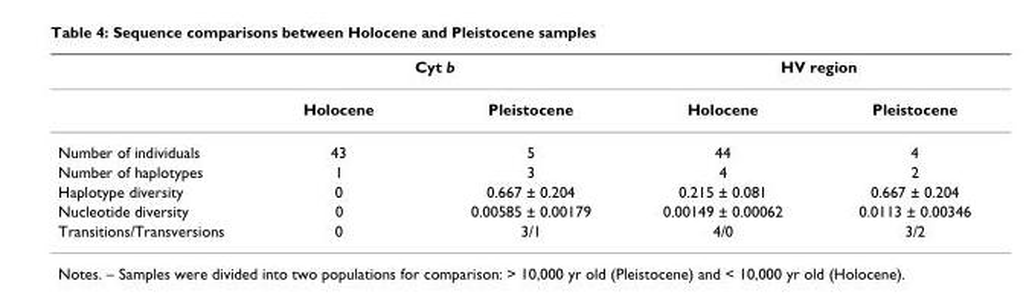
<table><thead><tr><td rowspan="2"></td><td colspan="2">Cyt b</td><td colspan="2">HV region</td></tr><tr><td>Holocene</td><td>Pleistocene</td><td>Holocene</td><td>Pleistocene</td></tr></thead><tbody><tr><td>Number of individuals</td><td>43</td><td>5</td><td>44</td><td>4</td></tr><tr><td>Number of haplotypes</td><td>1</td><td>3</td><td>4</td><td>2</td></tr><tr><td>Haplotype diversity</td><td>0</td><td>0.667 ± 0.204</td><td>0.215 ± 0.081</td><td>0.667 ± 0.204</td></tr><tr><td>Nucleotide diversity</td><td>0</td><td>0.00585 ± 0.00179</td><td>0.00149 ± 0.00062</td><td>0.0113 ± 0.00346</td></tr><tr><td>Transitions/Transversions</td><td>0</td><td>3/1</td><td>4/0</td><td>3/2</td></tr></tbody></table>